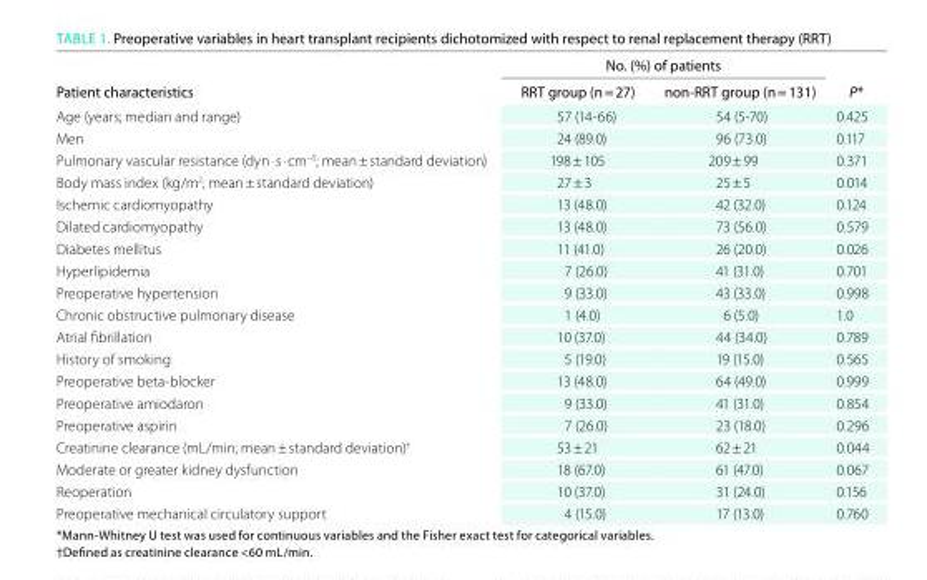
<table><thead><tr><td rowspan="2">Patient characteristics</td><td colspan="2">No. (%) of patients</td><td rowspan="2">P*</td></tr><tr><td>rrT group (n = 27)</td><td>non-rrT group (n = 131)</td></tr></thead><tbody><tr><td>Age (years; median and range)</td><td>57 (14-66)</td><td>54 (5-70)</td><td>0.425</td></tr><tr><td>Men</td><td>24 (89.0)</td><td>96 (73.0)</td><td>0.117</td></tr><tr><td>Pulmonary vascular resistance (dyn · s · cm<sup>−5</sup>; mean ± standard deviation)</td><td>198 ± 105</td><td>209 ± 99</td><td>0.371</td></tr><tr><td>Body mass index (kg/m<sup>2</sup>; mean ± standard deviation)</td><td>27 ± 3</td><td>25 ± 5</td><td>0.014</td></tr><tr><td>Ischemic cardiomyopathy</td><td>13 (48.0)</td><td>42 (32.0)</td><td>0.124</td></tr><tr><td>Dilated cardiomyopathy</td><td>13 (48.0)</td><td>73 (56.0)</td><td>0.579</td></tr><tr><td>Diabetes mellitus</td><td>11 (41.0)</td><td>26 (20.0)</td><td>0.026</td></tr><tr><td>Hyperlipidemia</td><td>7 (26.0)</td><td>41 (31.0)</td><td>0.701</td></tr><tr><td>Preoperative hypertension</td><td>9 (33.0)</td><td>43 (33.0)</td><td>0.998</td></tr><tr><td>Chronic obstructive pulmonary disease</td><td>1 (4.0)</td><td>6 (5.0)</td><td>1.0</td></tr><tr><td>Atrial fibrillation</td><td>10 (37.0)</td><td>44 (34.0)</td><td>0.789</td></tr><tr><td>History of smoking</td><td>5 (19.0)</td><td>19 (15.0)</td><td>0.565</td></tr><tr><td>Preoperative beta-blocker</td><td>13 (48.0)</td><td>64 (49.0)</td><td>0.999</td></tr><tr><td>Preoperative amiodaron</td><td>9 (33.0)</td><td>41 (31.0)</td><td>0.854</td></tr><tr><td>Preoperative aspirin</td><td>7 (26.0)</td><td>23 (18.0)</td><td>0.296</td></tr><tr><td>Creatinine clearance (mL/min; mean ± standard deviation)<sup>†</sup></td><td>53 ± 21</td><td>62 ± 21</td><td>0.044</td></tr><tr><td>Moderate or greater kidney dysfunction</td><td>18 (67.0)</td><td>61 (47.0)</td><td>0.067</td></tr><tr><td>Reoperation</td><td>10 (37.0)</td><td>31 (24.0)</td><td>0.156</td></tr><tr><td>Preoperative mechanical circulatory support</td><td>4 (15.0)</td><td>17 (13.0)</td><td>0.760</td></tr></tbody></table>